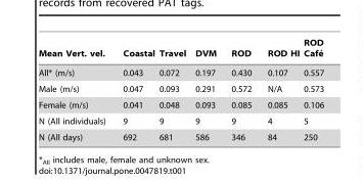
<table><thead><tr><td>Mean Vert. vel.</td><td>Coastal</td><td>Travel</td><td>DVM</td><td>ROD</td><td>ROD HI</td><td>ROD Cafe´</td></tr></thead><tbody><tr><td>All* (m/s)</td><td>0.043</td><td>0.072</td><td>0.197</td><td>0.430</td><td>0.107</td><td>0.557</td></tr><tr><td>Male (m/s)</td><td>0.047</td><td>0.093</td><td>0.291</td><td>0.572</td><td>N/A</td><td>0.573</td></tr><tr><td>Female (m/s)</td><td>0.041</td><td>0.048</td><td>0.093</td><td>0.085</td><td>0.085</td><td>0.106</td></tr><tr><td>N (All individuals)</td><td>9</td><td>9</td><td>9</td><td>9</td><td>4</td><td>5</td></tr><tr><td>N (All days)</td><td>692</td><td>681</td><td>586</td><td>346</td><td>84</td><td>250</td></tr></tbody></table>